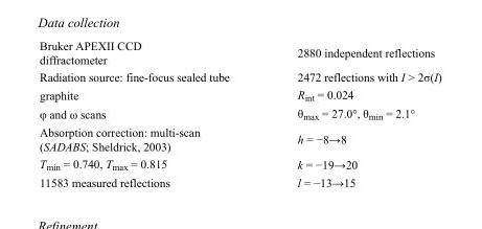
<table><tbody><tr><td>Bruker APEXII CCD diffractometer</td><td>2880 independent reflections</td></tr><tr><td>Radiation source: fine-focus sealed tube</td><td>2472 reflections with I &gt; 2σ(I)</td></tr><tr><td>graphite</td><td>R<sub>int</sub> = 0.024</td></tr><tr><td>φ and ω scans</td><td>θ<sub>max</sub> = 27.0°, θ<sub>min</sub> = 2.1°</td></tr><tr><td>Absorption correction: multi-scan (SADABS; Sheldrick, 2003)</td><td>h = −8→8</td></tr><tr><td>T<sub>min</sub> = 0.740, T<sub>max</sub> = 0.815</td><td>k = −19→20</td></tr><tr><td>11583 measured reflections</td><td>l = −13→15</td></tr></tbody></table>